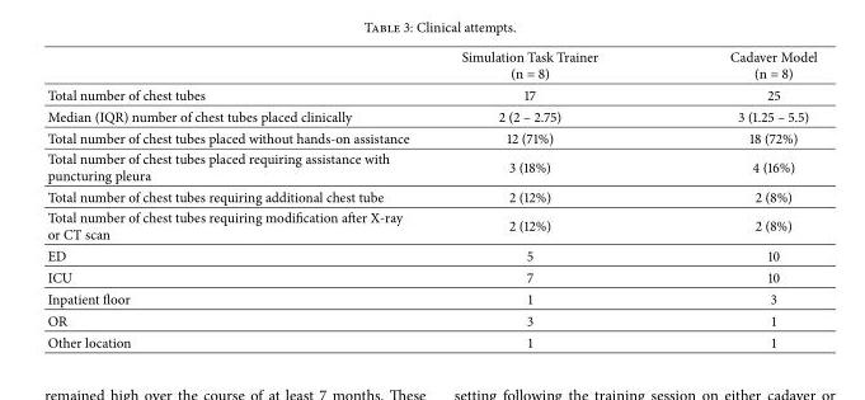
<table><thead><tr><td></td><td>Simulation Task Trainer (n = 8)</td><td>Cadaver Model (n = 8)</td></tr></thead><tbody><tr><td>Total number of chest tubes</td><td>17</td><td>25</td></tr><tr><td>Median (IQR) number of chest tubes placed clinically</td><td>2 (2 – 2.75)</td><td>3 (1.25 – 5.5)</td></tr><tr><td>Total number of chest tubes placed without hands-on assistance</td><td>12 (71%)</td><td>18 (72%)</td></tr><tr><td>Total number of chest tubes placed requiring assistance with puncturing pleura</td><td>3 (18%)</td><td>4 (16%)</td></tr><tr><td>Total number of chest tubes requiring additional chest tube</td><td>2 (12%)</td><td>2 (8%)</td></tr><tr><td>Total number of chest tubes requiring modification after X-ray or CT scan</td><td>2 (12%)</td><td>2 (8%)</td></tr><tr><td>ED</td><td>5</td><td>10</td></tr><tr><td>ICU</td><td>7</td><td>10</td></tr><tr><td>Inpatient floor</td><td>1</td><td>3</td></tr><tr><td>OR</td><td>3</td><td>1</td></tr><tr><td>Other location</td><td>1</td><td>1</td></tr></tbody></table>